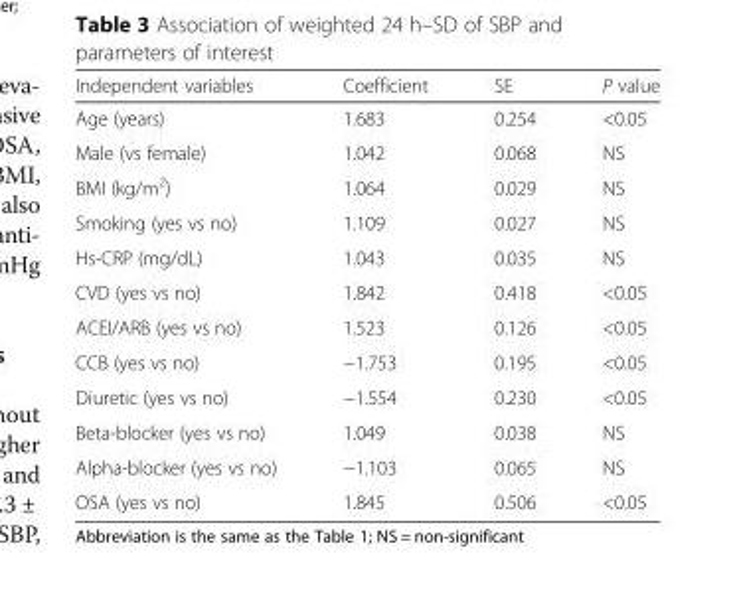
<table><thead><tr><td>Independent variables</td><td>Coefficient</td><td>SE</td><td>P value</td></tr></thead><tbody><tr><td>Age (years)</td><td>1.683</td><td>0.254</td><td>&lt;0.05</td></tr><tr><td>Male (vs female)</td><td>1.042</td><td>0.068</td><td>NS</td></tr><tr><td>BMI (kg/m<sup>2</sup>)</td><td>1.064</td><td>0.029</td><td>NS</td></tr><tr><td>Smoking (yes vs no)</td><td>1.109</td><td>0.027</td><td>NS</td></tr><tr><td>Hs-CRP (mg/dL)</td><td>1.043</td><td>0.035</td><td>NS</td></tr><tr><td>CVD (yes vs no)</td><td>1.842</td><td>0.418</td><td>&lt;0.05</td></tr><tr><td>ACEI/ARB (yes vs no)</td><td>1.523</td><td>0.126</td><td>&lt;0.05</td></tr><tr><td>CCB (yes vs no)</td><td>−1.753</td><td>0.195</td><td>&lt;0.05</td></tr><tr><td>Diuretic (yes vs no)</td><td>−1.554</td><td>0.230</td><td>&lt;0.05</td></tr><tr><td>Beta-blocker (yes vs no)</td><td>1.049</td><td>0.038</td><td>NS</td></tr><tr><td>Alpha-blocker (yes vs no)</td><td>−1.103</td><td>0.065</td><td>NS</td></tr><tr><td>OSA (yes vs no)</td><td>1.845</td><td>0.506</td><td>&lt;0.05</td></tr></tbody></table>